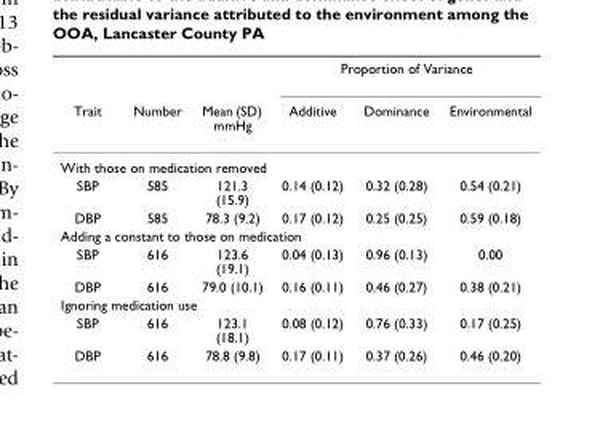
<table><thead><tr><td rowspan="2">Trait</td><td rowspan="2">Number</td><td rowspan="2">Mean (SD) mmHg</td><td colspan="3">Proportion of Variance</td></tr><tr><td>Additive</td><td>Dominance</td><td>Environmental</td></tr></thead><tbody><tr><td colspan="6">With those on medication removed</td></tr><tr><td>SBP</td><td>585</td><td>121.3 (15.9)</td><td>0.14 (0.12)</td><td>0.32 (0.28)</td><td>0.54 (0.21)</td></tr><tr><td>DBP</td><td>585</td><td>78.3 (9.2)</td><td>0.17 (0.12)</td><td>0.25 (0.25)</td><td>0.59 (0.18)</td></tr><tr><td colspan="6">Adding a constant to those on medication</td></tr><tr><td>SBP</td><td>616</td><td>123.6 (19.1)</td><td>0.04 (0.13)</td><td>0.96 (0.13)</td><td>0.00</td></tr><tr><td>DBP</td><td>616</td><td>79.0 (10.1)</td><td>0.16 (0.11)</td><td>0.46 (0.27)</td><td>0.38 (0.21)</td></tr><tr><td colspan="6">Ignoring medication use</td></tr><tr><td>SBP</td><td>616</td><td>123.1 (18.1)</td><td>0.08 (0.12)</td><td>0.76 (0.33)</td><td>0.17 (0.25)</td></tr><tr><td>DBP</td><td>616</td><td>78.8 (9.8)</td><td>0.17 (0.11)</td><td>0.37 (0.26)</td><td>0.46 (0.20)</td></tr></tbody></table>